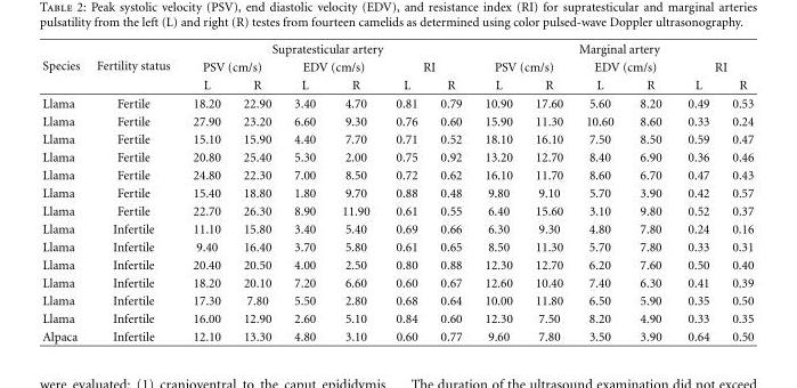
<table><thead><tr><td rowspan="3">Species</td><td rowspan="3">Fertility status</td><td colspan="6">Supratesticular artery</td><td colspan="6">Marginal artery</td></tr><tr><td colspan="2">PSV (cm/s)</td><td colspan="2">EDV (cm/s)</td><td colspan="2">RI</td><td colspan="2">PSV (cm/s)</td><td colspan="2">EDV (cm/s)</td><td colspan="2">RI</td></tr><tr><td>L</td><td>R</td><td>L</td><td>R</td><td>L</td><td>R</td><td>L</td><td>R</td><td>L</td><td>R</td><td>L</td><td>R</td></tr></thead><tbody><tr><td>Llama</td><td>Fertile</td><td>18.20</td><td>22.90</td><td>3.40</td><td>4.70</td><td>0.81</td><td>0.79</td><td>10.90</td><td>17.60</td><td>5.60</td><td>8.20</td><td>0.49</td><td>0.53</td></tr><tr><td>Llama</td><td>Fertile</td><td>27.90</td><td>23.20</td><td>6.60</td><td>9.30</td><td>0.76</td><td>0.60</td><td>15.90</td><td>11.30</td><td>10.60</td><td>8.60</td><td>0.33</td><td>0.24</td></tr><tr><td>Llama</td><td>Fertile</td><td>15.10</td><td>15.90</td><td>4.40</td><td>7.70</td><td>0.71</td><td>0.52</td><td>18.10</td><td>16.10</td><td>7.50</td><td>8.50</td><td>0.59</td><td>0.47</td></tr><tr><td>Llama</td><td>Fertile</td><td>20.80</td><td>25.40</td><td>5.30</td><td>2.00</td><td>0.75</td><td>0.92</td><td>13.20</td><td>12.70</td><td>8.40</td><td>6.90</td><td>0.36</td><td>0.46</td></tr><tr><td>Llama</td><td>Fertile</td><td>24.80</td><td>22.30</td><td>7.00</td><td>8.50</td><td>0.72</td><td>0.62</td><td>16.10</td><td>11.70</td><td>8.60</td><td>6.70</td><td>0.47</td><td>0.43</td></tr><tr><td>Llama</td><td>Fertile</td><td>15.40</td><td>18.80</td><td>1.80</td><td>9.70</td><td>0.88</td><td>0.48</td><td>9.80</td><td>9.10</td><td>5.70</td><td>3.90</td><td>0.42</td><td>0.57</td></tr><tr><td>Llama</td><td>Fertile</td><td>22.70</td><td>26.30</td><td>8.90</td><td>11.90</td><td>0.61</td><td>0.55</td><td>6.40</td><td>15.60</td><td>3.10</td><td>9.80</td><td>0.52</td><td>0.37</td></tr><tr><td>Llama</td><td>Infertile</td><td>11.10</td><td>15.80</td><td>3.40</td><td>5.40</td><td>0.69</td><td>0.66</td><td>6.30</td><td>9.30</td><td>4.80</td><td>7.80</td><td>0.24</td><td>0.16</td></tr><tr><td>Llama</td><td>Infertile</td><td>9.40</td><td>16.40</td><td>3.70</td><td>5.80</td><td>0.61</td><td>0.65</td><td>8.50</td><td>11.30</td><td>5.70</td><td>7.80</td><td>0.33</td><td>0.31</td></tr><tr><td>Llama</td><td>Infertile</td><td>20.40</td><td>20.50</td><td>4.00</td><td>2.50</td><td>0.80</td><td>0.88</td><td>12.30</td><td>12.70</td><td>6.20</td><td>7.60</td><td>0.50</td><td>0.40</td></tr><tr><td>Llama</td><td>Infertile</td><td>18.20</td><td>20.10</td><td>7.20</td><td>6.60</td><td>0.60</td><td>0.67</td><td>12.60</td><td>10.40</td><td>7.40</td><td>6.30</td><td>0.41</td><td>0.39</td></tr><tr><td>Llama</td><td>Infertile</td><td>17.30</td><td>7.80</td><td>5.50</td><td>2.80</td><td>0.68</td><td>0.64</td><td>10.00</td><td>11.80</td><td>6.50</td><td>5.90</td><td>0.35</td><td>0.50</td></tr><tr><td>Llama</td><td>Infertile</td><td>16.00</td><td>12.90</td><td>2.60</td><td>5.10</td><td>0.84</td><td>0.60</td><td>12.30</td><td>7.50</td><td>8.20</td><td>4.90</td><td>0.33</td><td>0.35</td></tr><tr><td>Alpaca</td><td>Infertile</td><td>12.10</td><td>13.30</td><td>4.80</td><td>3.10</td><td>0.60</td><td>0.77</td><td>9.60</td><td>7.80</td><td>3.50</td><td>3.90</td><td>0.64</td><td>0.50</td></tr></tbody></table>